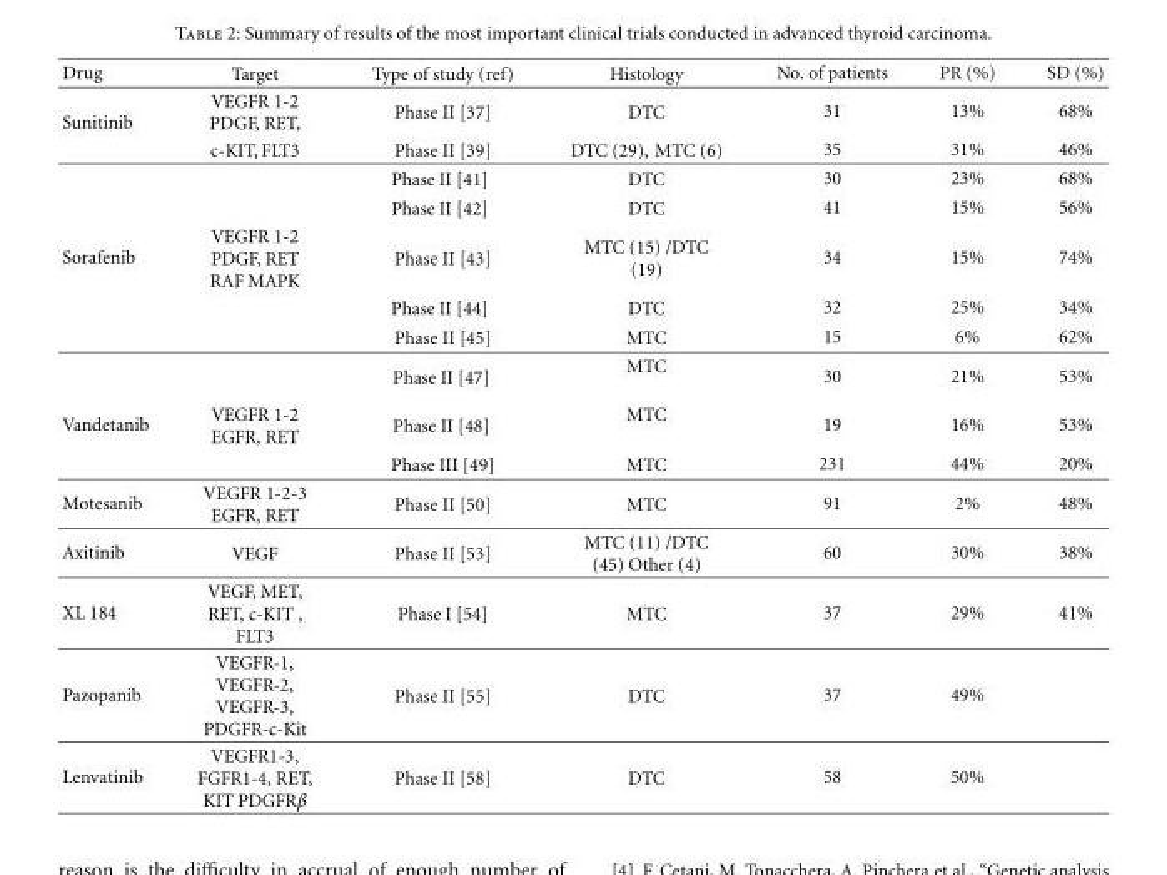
<table><thead><tr><td>Drug</td><td>Target</td><td>Type of study (ref)</td><td>Histology</td><td>No. of patients</td><td>PR (%)</td><td>SD (%)</td></tr></thead><tbody><tr><td rowspan="4">Sunitinib</td><td>VEGFR 1-2 PDGF, RET,</td><td>Phase II [37]</td><td>DTC</td><td>31</td><td>13%</td><td>68%</td></tr><tr><td>c-KIT, FLT3</td><td>Phase II [39]</td><td>DTC (29), MTC (6)</td><td>35</td><td>31%</td><td>46%</td></tr><tr><td></td><td>Phase II [41]</td><td>DTC</td><td>30</td><td>23%</td><td>68%</td></tr><tr><td></td><td>Phase II [42]</td><td>DTC</td><td>41</td><td>15%</td><td>56%</td></tr><tr><td rowspan="4">Sorafenib</td><td>VEGFR 1-2 PDGF, RET RAF MAPK</td><td>Phase II [43]</td><td>MTC (15) /DTC (19)</td><td>34</td><td>15%</td><td>74%</td></tr><tr><td></td><td>Phase II [44]</td><td>DTC</td><td>32</td><td>25%</td><td>34%</td></tr><tr><td></td><td>Phase II [45]</td><td>MTC</td><td>15</td><td>6%</td><td>62%</td></tr><tr><td></td><td>Phase II [47]</td><td>MTC</td><td>30</td><td>21%</td><td>53%</td></tr><tr><td rowspan="2">Vandetanib</td><td>VEGFR 1-2 EGFR, RET</td><td>Phase II [48]</td><td>MTC</td><td>19</td><td>16%</td><td>53%</td></tr><tr><td></td><td>Phase III [49]</td><td>MTC</td><td>231</td><td>44%</td><td>20%</td></tr><tr><td>Motesanib</td><td>VEGFR 1-2-3 EGFR, RET</td><td>Phase II [50]</td><td>MTC</td><td>91</td><td>2%</td><td>48%</td></tr><tr><td>Axitinib</td><td>VEGF</td><td>Phase II [53]</td><td>MTC (11) /DTC (45) Other (4)</td><td>60</td><td>30%</td><td>38%</td></tr><tr><td>XL 184</td><td>VEGF, MET, RET, c-KIT , FLT3</td><td>Phase I [54]</td><td>MTC</td><td>37</td><td>29%</td><td>41%</td></tr><tr><td>Pazopanib</td><td>VEGFR-1, VEGFR-2, VEGFR-3, PDGFR-c-Kit</td><td>Phase II [55]</td><td>DTC</td><td>37</td><td>49%</td><td></td></tr><tr><td>Lenvatinib</td><td>VEGFR1-3, FGFR1-4, RET, KIT PDGFRβ</td><td>Phase II [58]</td><td>DTC</td><td>58</td><td>50%</td><td></td></tr></tbody></table>